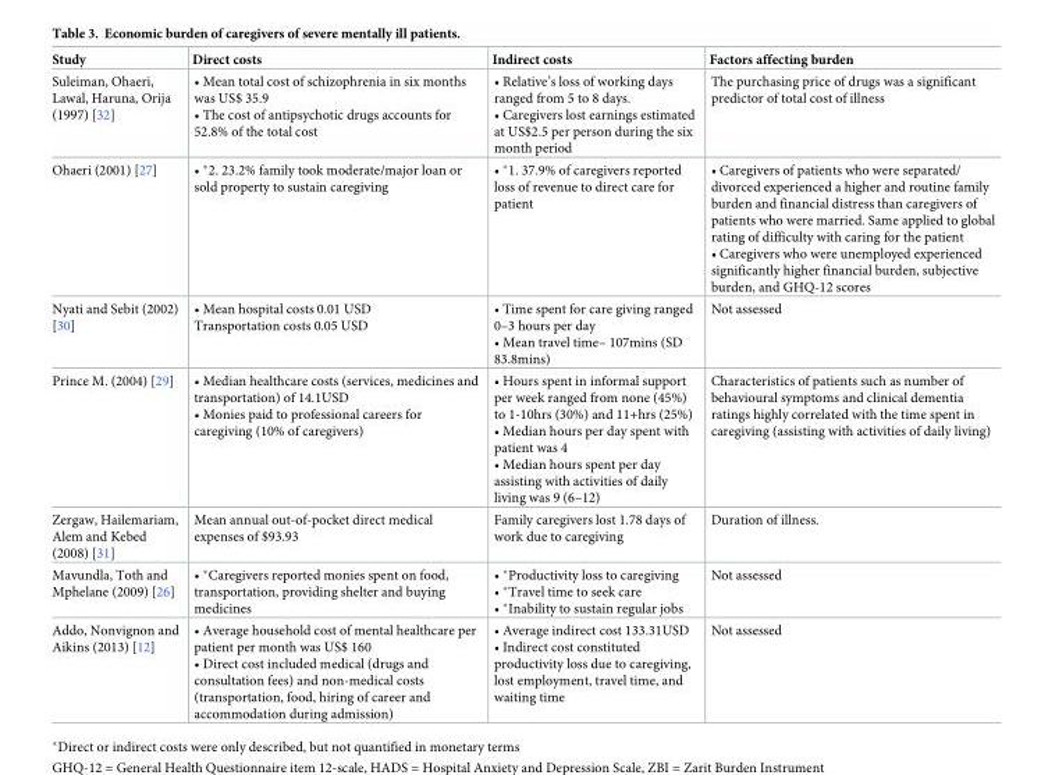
<table><thead><tr><td>Study</td><td>Direct costs</td><td>Indirect costs</td><td>Factors affecting burden</td></tr></thead><tbody><tr><td>Suleiman, Ohaeri, Lawal, Haruna, Orija (1997) [32]</td><td>• Mean total cost of schizophrenia in six months was US$ 35.9 • The cost of antipsychotic drugs accounts for 52.8% of the total cost</td><td>• Relative’s loss of working days ranged from 5 to 8 days. • Caregivers lost earnings estimated at US$2.5 per person during the six month period</td><td>The purchasing price of drugs was a significant predictor of total cost of illness</td></tr><tr><td>Ohaeri (2001) [27]</td><td>• *2. 23.2% family took moderate/major loan or sold property to sustain caregiving</td><td>• *1. 37.9% of caregivers reported loss of revenue to direct care for patient</td><td>• Caregivers of patients who were separated/ divorced experienced a higher and routine family burden and financial distress than caregivers of patients who were married. Same applied to global rating of difficulty with caring for the patient • Caregivers who were unemployed experienced significantly higher financial burden, subjective burden, and GHQ-12 scores</td></tr><tr><td>Nyati and Sebit (2002) [30]</td><td>• Mean hospital costs 0.01 USD Transportation costs 0.05 USD</td><td>• Time spent for care giving ranged 0–3 hours per day • Mean travel time– 107mins (SD 83.8mins)</td><td>Not assessed</td></tr><tr><td>Prince M. (2004) [29]</td><td>• Median healthcare costs (services, medicines and transportation) of 14.1USD • Monies paid to professional careers for caregiving (10% of caregivers)</td><td>• Hours spent in informal support per week ranged from none (45%) to 1-10hrs (30%) and 11+hrs (25%) • Median hours per day spent with patient was 4 • Median hours spent per day assisting with activities of daily living was 9 (6–12)</td><td>Characteristics of patients such as number of behavioural symptoms and clinical dementia ratings highly correlated with the time spent in caregiving (assisting with activities of daily living)</td></tr><tr><td>Zergaw, Hailemariam, Alem and Kebed (2008) [31]</td><td>Mean annual out-of-pocket direct medical expenses of $93.93</td><td>Family caregivers lost 1.78 days of work due to caregiving</td><td>Duration of illness.</td></tr><tr><td>Mavundla, Toth and Mphelane (2009) [26]</td><td>• *Caregivers reported monies spent on food, transportation, providing shelter and buying medicines</td><td>• *Productivity loss to caregiving • *Travel time to seek care • *Inability to sustain regular jobs</td><td>Not assessed</td></tr><tr><td>Addo, Nonvignon and Aikins (2013) [12]</td><td>• Average household cost of mental healthcare per patient per month was US$ 160 • Direct cost included medical (drugs and consultation fees) and non-medical costs (transportation, food, hiring of career and accommodation during admission)</td><td>• Average indirect cost 133.31USD • Indirect cost constituted productivity loss due to caregiving, lost employment, travel time, and waiting time</td><td>Not assessed</td></tr></tbody></table>